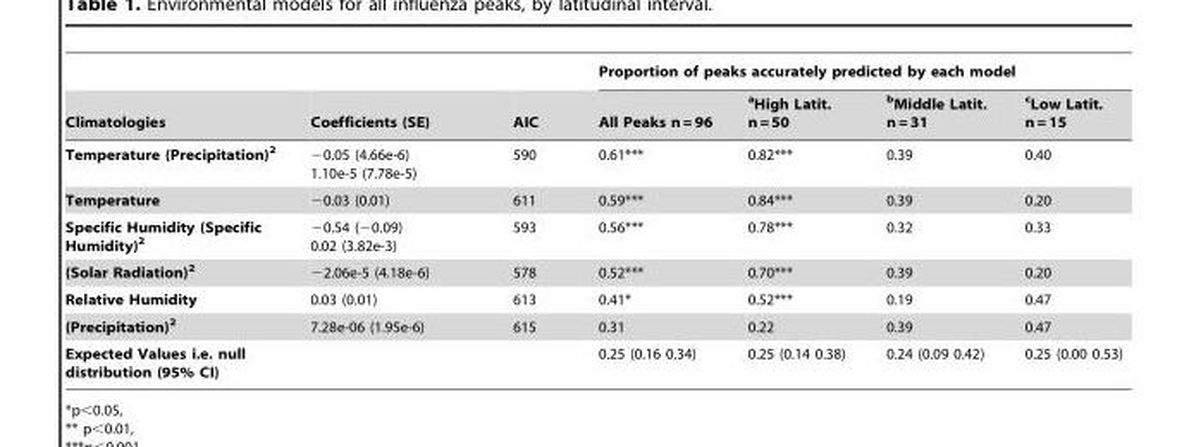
<table><thead><tr><td rowspan="2">Climatologies</td><td rowspan="2">Coefficients (SE)</td><td rowspan="2">AIC</td><td colspan="4">Proportion of peaks accurately predicted by each model</td></tr><tr><td>All Peaks n = 96</td><td>aHigh Latit. n = 50</td><td>bMiddle Latit. n = 31</td><td>cLow Latit. n = 15</td></tr></thead><tbody><tr><td>Temperature (Precipitation)<sup>2</sup></td><td>−0.05 (4.66e-6) 1.10e-5 (7.78e-5)</td><td>590</td><td>0.61***</td><td>0.82***</td><td>0.39</td><td>0.40</td></tr><tr><td>Temperature</td><td>−0.03 (0.01)</td><td>611</td><td>0.59***</td><td>0.84***</td><td>0.39</td><td>0.20</td></tr><tr><td>Specific Humidity (Specific Humidity)<sup>2</sup></td><td>−0.54 (−0.09) 0.02 (3.82e-3)</td><td>593</td><td>0.56***</td><td>0.78***</td><td>0.32</td><td>0.33</td></tr><tr><td>(Solar Radiation)<sup>2</sup></td><td>−2.06e-5 (4.18e-6)</td><td>578</td><td>0.52***</td><td>0.70***</td><td>0.39</td><td>0.20</td></tr><tr><td>Relative Humidity</td><td>0.03 (0.01)</td><td>613</td><td>0.41*</td><td>0.52***</td><td>0.19</td><td>0.47</td></tr><tr><td>(Precipitation)<sup>2</sup></td><td>7.28e-06 (1.95e-6)</td><td>615</td><td>0.31</td><td>0.22</td><td>0.39</td><td>0.47</td></tr><tr><td>Expected Values i.e. null distribution (95% CI)</td><td></td><td></td><td>0.25 (0.16 0.34)</td><td>0.25 (0.14 0.38)</td><td>0.24 (0.09 0.42)</td><td>0.25 (0.00 0.53)</td></tr></tbody></table>